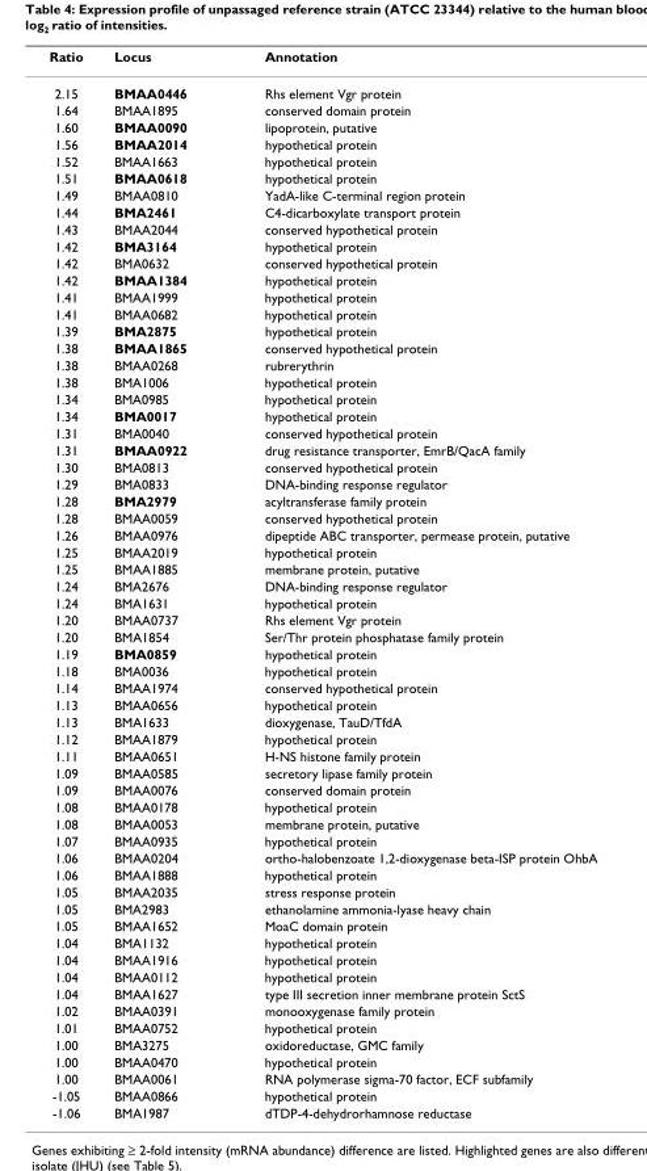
<table><thead><tr><td>Ratio</td><td>Locus</td><td>Annotation</td></tr></thead><tbody><tr><td>2.15</td><td>BMAA0446</td><td>Rhs element Vgr protein</td></tr><tr><td>1.64</td><td>BMAA1895</td><td>conserved domain protein</td></tr><tr><td>1.60</td><td>BMAA0090</td><td>lipoprotein, putative</td></tr><tr><td>1.56</td><td>BMAA2014</td><td>hypothetical protein</td></tr><tr><td>1.52</td><td>BMAA1663</td><td>hypothetical protein</td></tr><tr><td>1.51</td><td>BMAA0618</td><td>hypothetical protein</td></tr><tr><td>1.49</td><td>BMAA0810</td><td>YadA-like C-terminal region protein</td></tr><tr><td>1.44</td><td>BMA2461</td><td>C4-dicarboxylate transport protein</td></tr><tr><td>1.43</td><td>BMAA2044</td><td>conserved hypothetical protein</td></tr><tr><td>1.42</td><td>BMA3164</td><td>hypothetical protein</td></tr><tr><td>1.42</td><td>BMA0632</td><td>conserved hypothetical protein</td></tr><tr><td>1.42</td><td>BMAA1384</td><td>hypothetical protein</td></tr><tr><td>1.41</td><td>BMAA1999</td><td>hypothetical protein</td></tr><tr><td>1.41</td><td>BMAA0682</td><td>hypothetical protein</td></tr><tr><td>1.39</td><td>BMA2875</td><td>hypothetical protein</td></tr><tr><td>1.38</td><td>BMAA1865</td><td>conserved hypothetical protein</td></tr><tr><td>1.38</td><td>BMAA0268</td><td>rubrerythrin</td></tr><tr><td>1.38</td><td>BMA1006</td><td>hypothetical protein</td></tr><tr><td>1.34</td><td>BMA0985</td><td>hypothetical protein</td></tr><tr><td>1.34</td><td>BMA0017</td><td>hypothetical protein</td></tr><tr><td>1.31</td><td>BMA0040</td><td>conserved hypothetical protein</td></tr><tr><td>1.31</td><td>BMAA0922</td><td>drug resistance transporter, EmrB/QacA family</td></tr><tr><td>1.30</td><td>BMA0813</td><td>conserved hypothetical protein</td></tr><tr><td>1.29</td><td>BMA0833</td><td>DNA-binding response regulator</td></tr><tr><td>1.28</td><td>BMA2979</td><td>acyltransferase family protein</td></tr><tr><td>1.28</td><td>BMAA0059</td><td>conserved hypothetical protein</td></tr><tr><td>1.26</td><td>BMAA0976</td><td>dipeptide ABC transporter, permease protein, putative</td></tr><tr><td>1.25</td><td>BMAA2019</td><td>hypothetical protein</td></tr><tr><td>1.25</td><td>BMAA1885</td><td>membrane protein, putative</td></tr><tr><td>1.24</td><td>BMA2676</td><td>DNA-binding response regulator</td></tr><tr><td>1.24</td><td>BMA1631</td><td>hypothetical protein</td></tr><tr><td>1.20</td><td>BMAA0737</td><td>Rhs element Vgr protein</td></tr><tr><td>1.20</td><td>BMA1854</td><td>Ser/Thr protein phosphatase family protein</td></tr><tr><td>1.19</td><td>BMA0859</td><td>hypothetical protein</td></tr><tr><td>1.18</td><td>BMA0036</td><td>hypothetical protein</td></tr><tr><td>1.14</td><td>BMAA1974</td><td>conserved hypothetical protein</td></tr><tr><td>1.13</td><td>BMAA0656</td><td>hypothetical protein</td></tr><tr><td>1.13</td><td>BMA1633</td><td>dioxygenase, TauD/TfdA</td></tr><tr><td>1.12</td><td>BMAA1879</td><td>hypothetical protein</td></tr><tr><td>1.11</td><td>BMAA0651</td><td>H-NS histone family protein</td></tr><tr><td>1.09</td><td>BMAA0585</td><td>secretory lipase family protein</td></tr><tr><td>1.09</td><td>BMAA0076</td><td>conserved domain protein</td></tr><tr><td>1.08</td><td>BMAA0178</td><td>hypothetical protein</td></tr><tr><td>1.08</td><td>BMAA0053</td><td>membrane protein, putative</td></tr><tr><td>1.07</td><td>BMAA0935</td><td>hypothetical protein</td></tr><tr><td>1.06</td><td>BMAA0204</td><td>ortho-halobenzoate 1,2-dioxygenase beta-ISP protein OhbA</td></tr><tr><td>1.06</td><td>BMAA1888</td><td>hypothetical protein</td></tr><tr><td>1.05</td><td>BMAA2035</td><td>stress response protein</td></tr><tr><td>1.05</td><td>BMA2983</td><td>ethanolamine ammonia-lyase heavy chain</td></tr><tr><td>1.05</td><td>BMAA1652</td><td>MoaC domain protein</td></tr><tr><td>1.04</td><td>BMA1132</td><td>hypothetical protein</td></tr><tr><td>1.04</td><td>BMAA1916</td><td>hypothetical protein</td></tr><tr><td>1.04</td><td>BMAA0112</td><td>hypothetical protein</td></tr><tr><td>1.04</td><td>BMAA1627</td><td>type III secretion inner membrane protein SctS</td></tr><tr><td>1.02</td><td>BMAA0391</td><td>monooxygenase family protein</td></tr><tr><td>1.01</td><td>BMAA0752</td><td>hypothetical protein</td></tr><tr><td>1.00</td><td>BMA3275</td><td>oxidoreductase, GMC family</td></tr><tr><td>1.00</td><td>BMAA0470</td><td>hypothetical protein</td></tr><tr><td>1.00</td><td>BMAA0061</td><td>RNA polymerase sigma-70 factor, ECF subfamily</td></tr><tr><td>-1.05</td><td>BMAA0866</td><td>hypothetical protein</td></tr><tr><td>-1.06</td><td>BMA1987</td><td>dTDP-4-dehydrorhamnose reductase</td></tr></tbody></table>